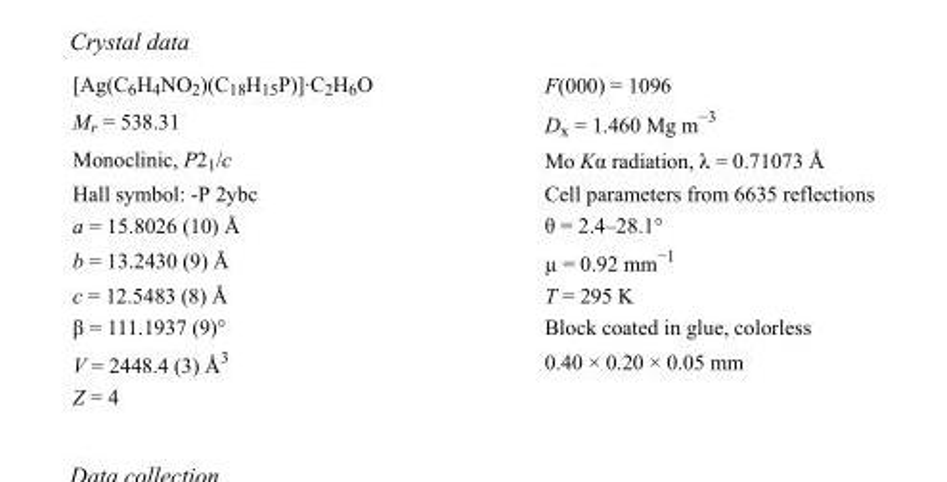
<table><tbody><tr><td>[Ag(C<sub>6</sub>H<sub>4</sub>NO<sub>2</sub>)(C<sub>18</sub>H<sub>15</sub>P)]·C<sub>2</sub>H<sub>6</sub>O</td><td>F(000) = 1096</td></tr><tr><td>M<sub>r</sub> = 538.31</td><td>D<sub>x</sub> = 1.460 Mg m<sup>−3</sup></td></tr><tr><td>Monoclinic, P2<sub>1</sub>/c</td><td>Mo Kα radiation, λ = 0.71073 Å</td></tr><tr><td>Hall symbol: -P 2ybc</td><td>Cell parameters from 6635 reflections</td></tr><tr><td>a = 15.8026 (10) Å</td><td>θ = 2.4–28.1°</td></tr><tr><td>b = 13.2430 (9) Å</td><td>µ = 0.92 mm<sup>−1</sup></td></tr><tr><td>c = 12.5483 (8) Å</td><td>T = 295 K</td></tr><tr><td>β = 111.1937 (9)°</td><td>Block coated in glue, colorless</td></tr><tr><td>V = 2448.4 (3) Å<sup>3</sup></td><td>0.40 × 0.20 × 0.05 mm</td></tr><tr><td>Z = 4</td><td></td></tr></tbody></table>